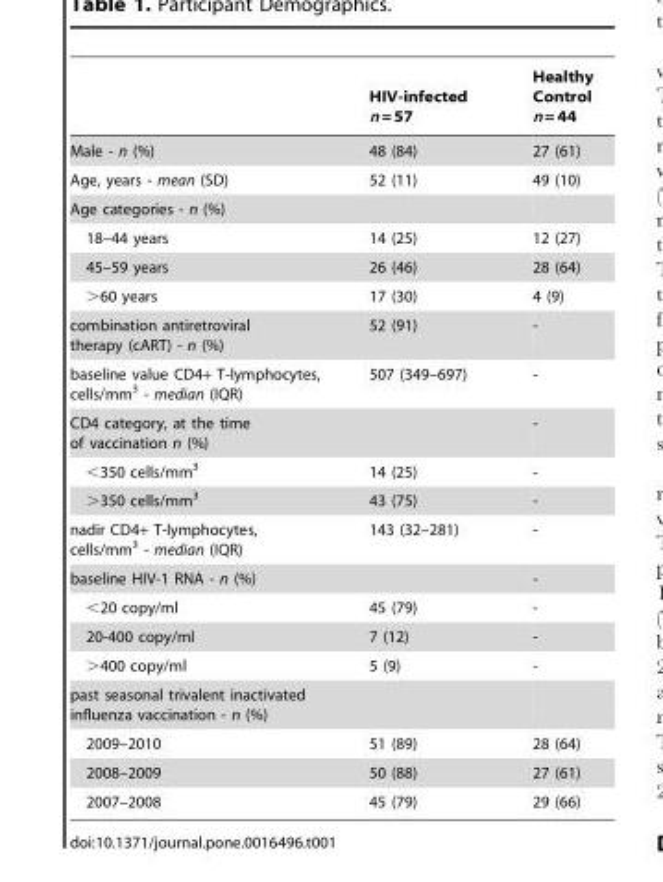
<table><thead><tr><td></td><td>HIV-infected n = 57</td><td>Healthy Control n = 44</td></tr></thead><tbody><tr><td>Male - n (%)</td><td>48 (84)</td><td>27 (61)</td></tr><tr><td>Age, years - mean (SD)</td><td>52 (11)</td><td>49 (10)</td></tr><tr><td colspan="3">Age categories - n (%)</td></tr><tr><td>18–44 years</td><td>14 (25)</td><td>12 (27)</td></tr><tr><td>45–59 years</td><td>26 (46)</td><td>28 (64)</td></tr><tr><td>&gt;60 years</td><td>17 (30)</td><td>4 (9)</td></tr><tr><td>combination antiretroviral therapy (cART) - n (%)</td><td>52 (91)</td><td>-</td></tr><tr><td>baseline value CD4+ T-lymphocytes, cells/mm<sup>3</sup> - median (IQR)</td><td>507 (349–697)</td><td>-</td></tr><tr><td>CD4 category, at the time of vaccination n (%)</td><td></td><td>-</td></tr><tr><td>&lt;350 cells/mm<sup>3</sup></td><td>14 (25)</td><td>-</td></tr><tr><td>&gt;350 cells/mm<sup>3</sup></td><td>43 (75)</td><td>-</td></tr><tr><td>nadir CD4+ T-lymphocytes, cells/mm<sup>3</sup> - median (IQR)</td><td>143 (32–281)</td><td>-</td></tr><tr><td>baseline HIV-1 RNA - n (%)</td><td></td><td>-</td></tr><tr><td>&lt;20 copy/ml</td><td>45 (79)</td><td>-</td></tr><tr><td>20-400 copy/ml</td><td>7 (12)</td><td>-</td></tr><tr><td>&gt;400 copy/ml</td><td>5 (9)</td><td>-</td></tr><tr><td colspan="3">past seasonal trivalent inactivated influenza vaccination - n (%)</td></tr><tr><td>2009–2010</td><td>51 (89)</td><td>28 (64)</td></tr><tr><td>2008–2009</td><td>50 (88)</td><td>27 (61)</td></tr><tr><td>2007–2008</td><td>45 (79)</td><td>29 (66)</td></tr></tbody></table>